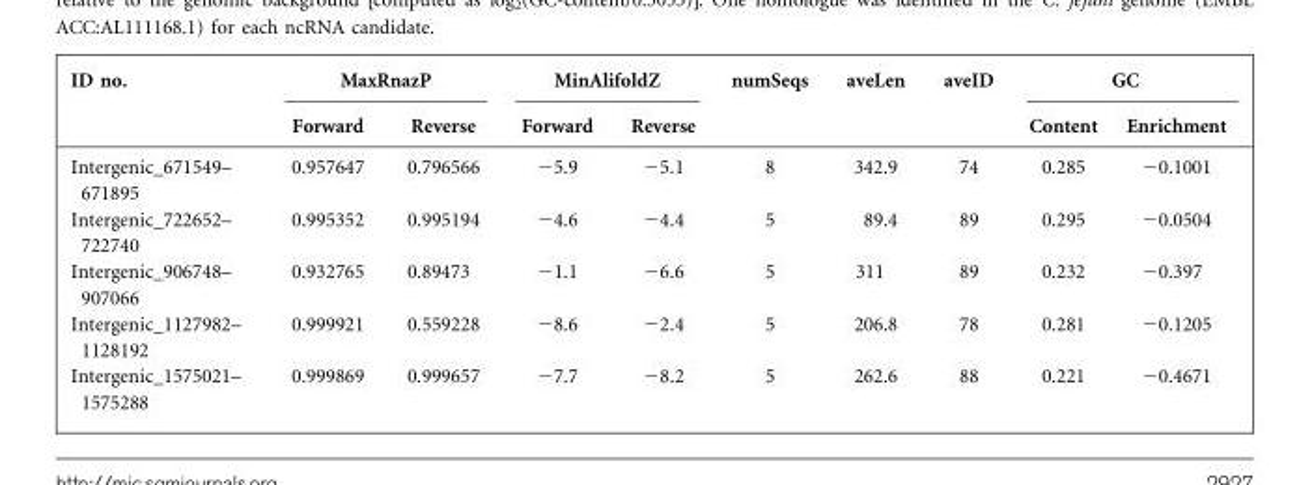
<table><thead><tr><td rowspan="2">ID no.</td><td colspan="2">MaxRnazP</td><td colspan="2">MinAlifoldZ</td><td rowspan="2">numSeqs</td><td rowspan="2">aveLen</td><td rowspan="2">aveID</td><td colspan="2">GC</td></tr><tr><td>Forward</td><td>Reverse</td><td>Forward</td><td>Reverse</td><td>Content</td><td>Enrichment</td></tr></thead><tbody><tr><td>Intergenic_671549– 671895</td><td>0.957647</td><td>0.796566</td><td>−5.9</td><td>−5.1</td><td>8</td><td>342.9</td><td>74</td><td>0.285</td><td>−0.1001</td></tr><tr><td>Intergenic_722652– 722740</td><td>0.995352</td><td>0.995194</td><td>−4.6</td><td>−4.4</td><td>5</td><td>89.4</td><td>89</td><td>0.295</td><td>−0.0504</td></tr><tr><td>Intergenic_906748– 907066</td><td>0.932765</td><td>0.89473</td><td>−1.1</td><td>−6.6</td><td>5</td><td>311</td><td>89</td><td>0.232</td><td>−0.397</td></tr><tr><td>Intergenic_1127982– 1128192</td><td>0.999921</td><td>0.559228</td><td>−8.6</td><td>−2.4</td><td>5</td><td>206.8</td><td>78</td><td>0.281</td><td>−0.1205</td></tr><tr><td>Intergenic_1575021– 1575288</td><td>0.999869</td><td>0.999657</td><td>−7.7</td><td>−8.2</td><td>5</td><td>262.6</td><td>88</td><td>0.221</td><td>−0.4671</td></tr></tbody></table>